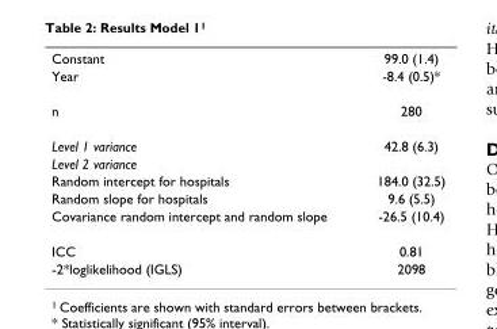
<table><tbody><tr><td>Constant</td><td>99.0 (1.4)</td></tr><tr><td>Year</td><td>-8.4 (0.5)*</td></tr><tr><td>n</td><td>280</td></tr><tr><td>Level 1 variance</td><td>42.8 (6.3)</td></tr><tr><td colspan="2">Level 2 variance</td></tr><tr><td>Random intercept for hospitals</td><td>184.0 (32.5)</td></tr><tr><td>Random slope for hospitals</td><td>9.6 (5.5)</td></tr><tr><td>Covariance random intercept and random slope</td><td>-26.5 (10.4)</td></tr><tr><td>ICC</td><td>0.81</td></tr><tr><td>-2*loglikelihood (IGLS)</td><td>2098</td></tr></tbody></table>